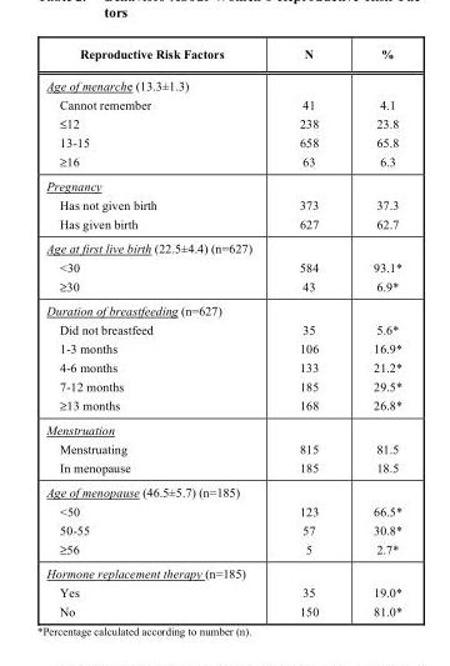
<table><thead><tr><td>Reproductive Risk Factors</td><td>N</td><td>%</td></tr></thead><tbody><tr><td>Age of menarche (13.3±1.3) Cannot remember ≤12 13-15 ≥16</td><td>41 238 658 63</td><td>4.1 23.8 65.8 6.3</td></tr><tr><td>Pregnancy Has not given birth Has given birth</td><td>373 627</td><td>37.3 62.7</td></tr><tr><td>Age at first live birth (22.5±4.4) (n=627) &lt;30 ≥30</td><td>584 43</td><td>93.1* 6.9*</td></tr><tr><td>Duration of breastfeeding (n=627) Did not breastfeed 1-3 months 4-6 months 7-12 months ≥13 months</td><td>35 106 133 185 168</td><td>5.6* 16.9* 21.2* 29.5* 26.8*</td></tr><tr><td>Menstruation Menstruating In menopause</td><td>815 185</td><td>81.5 18.5</td></tr><tr><td>Age of menopause (46.5±5.7) (n=185) &lt;50 50-55 ≥56</td><td>123 57 5</td><td>66.5* 30.8* 2.7*</td></tr><tr><td>Hormone replacement therapy (n=185) Yes No</td><td>35 150</td><td>19.0* 81.0*</td></tr></tbody></table>